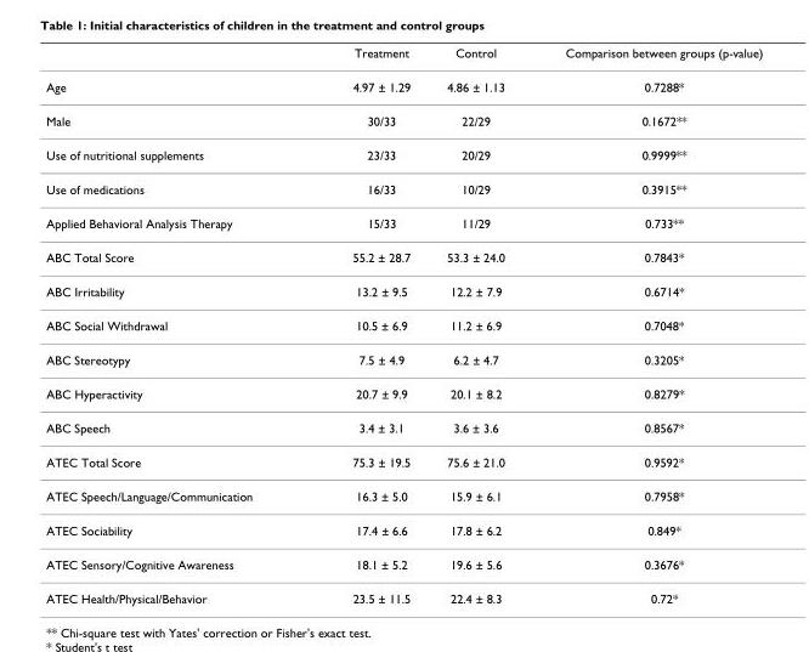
<table><thead><tr><td></td><td>Treatment</td><td>Control</td><td>Comparison between groups (p-value)</td></tr></thead><tbody><tr><td>Age</td><td>4.97 ± 1.29</td><td>4.86 ± 1.13</td><td>0.7288*</td></tr><tr><td>Male</td><td>30/33</td><td>22/29</td><td>0.1672**</td></tr><tr><td>Use of nutritional supplements</td><td>23/33</td><td>20/29</td><td>0.9999**</td></tr><tr><td>Use of medications</td><td>16/33</td><td>10/29</td><td>0.3915**</td></tr><tr><td>Applied Behavioral Analysis Therapy</td><td>15/33</td><td>11/29</td><td>0.733**</td></tr><tr><td>ABC Total Score</td><td>55.2 ± 28.7</td><td>53.3 ± 24.0</td><td>0.7843*</td></tr><tr><td>ABC Irritability</td><td>13.2 ± 9.5</td><td>12.2 ± 7.9</td><td>0.6714*</td></tr><tr><td>ABC Social Withdrawal</td><td>10.5 ± 6.9</td><td>11.2 ± 6.9</td><td>0.7048*</td></tr><tr><td>ABC Stereotypy</td><td>7.5 ± 4.9</td><td>6.2 ± 4.7</td><td>0.3205*</td></tr><tr><td>ABC Hyperactivity</td><td>20.7 ± 9.9</td><td>20.1 ± 8.2</td><td>0.8279*</td></tr><tr><td>ABC Speech</td><td>3.4 ± 3.1</td><td>3.6 ± 3.6</td><td>0.8567*</td></tr><tr><td>ATEC Total Score</td><td>75.3 ± 19.5</td><td>75.6 ± 21.0</td><td>0.9592*</td></tr><tr><td>ATEC Speech/Language/Communication</td><td>16.3 ± 5.0</td><td>15.9 ± 6.1</td><td>0.7958*</td></tr><tr><td>ATEC Sociability</td><td>17.4 ± 6.6</td><td>17.8 ± 6.2</td><td>0.849*</td></tr><tr><td>ATEC Sensory/Cognitive Awareness</td><td>18.1 ± 5.2</td><td>19.6 ± 5.6</td><td>0.3676*</td></tr><tr><td>ATEC Health/Physical/Behavior</td><td>23.5 ± 11.5</td><td>22.4 ± 8.3</td><td>0.72*</td></tr></tbody></table>